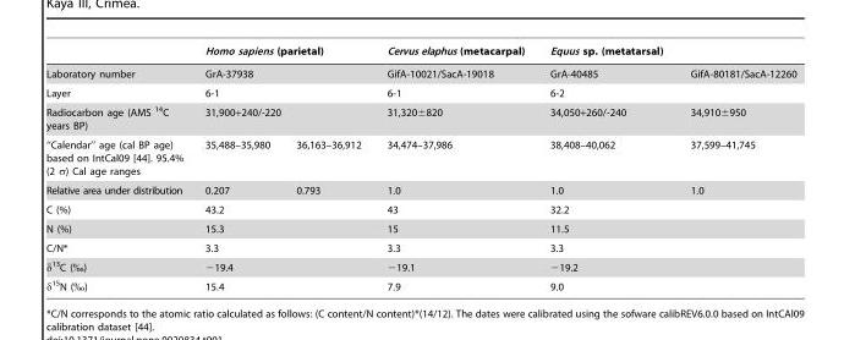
<table><thead><tr><td></td><td colspan="2">Homo sapiens (parietal)</td><td>Cervus elaphus (metacarpal)</td><td colspan="2">Equus sp. (metatarsal)</td></tr></thead><tbody><tr><td>Laboratory number</td><td colspan="2">GrA-37938</td><td>GifA-10021/SacA-19018</td><td>GrA-40485</td><td>GifA-80181/SacA-12260</td></tr><tr><td>Layer</td><td colspan="2">6-1</td><td>6-1</td><td colspan="2">6-2</td></tr><tr><td>Radiocarbon age (AMS <sup>14</sup>C years BP)</td><td colspan="2">31,900+240/-220</td><td>31,320±820</td><td>34,050+260/-240</td><td>34,910±950</td></tr><tr><td>‘‘Calendar’’ age (cal BP age) based on IntCal09 [44]. 95.4% (2 s) Cal age ranges</td><td>35,488–35,980</td><td>36,163–36,912</td><td>34,474–37,986</td><td>38,408–40,062</td><td>37,599–41,745</td></tr><tr><td>Relative area under distribution</td><td>0.207</td><td>0.793</td><td>1.0</td><td>1.0</td><td>1.0</td></tr><tr><td>C (%)</td><td colspan="2">43.2</td><td>43</td><td colspan="2">32.2</td></tr><tr><td>N (%)</td><td colspan="2">15.3</td><td>15</td><td colspan="2">11.5</td></tr><tr><td>C/N*</td><td colspan="2">3.3</td><td>3.3</td><td colspan="2">3.3</td></tr><tr><td>δ<sup>13</sup>C (‰)</td><td colspan="2">−19.4</td><td>−19.1</td><td colspan="2">−19.2</td></tr><tr><td>δ<sup>15</sup>N (‰)</td><td colspan="2">15.4</td><td>7.9</td><td colspan="2">9.0</td></tr></tbody></table>